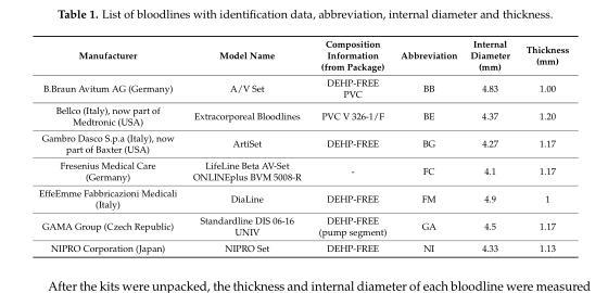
<table><thead><tr><td>Manufacturer</td><td>Model Name</td><td>Composition Information (from Package)</td><td>Abbreviation</td><td>Internal Diameter (mm)</td><td>Thickness (mm)</td></tr></thead><tbody><tr><td>B.Braun Avitum AG (Germany)</td><td>A/V Set</td><td>DEHP-FREE PVC</td><td>BB</td><td>4.83</td><td>1.00</td></tr><tr><td>Bellco (Italy), now part of Medtronic (USA)</td><td>Extracorporeal Bloodlines</td><td>PVC V 326-1/F</td><td>BE</td><td>4.37</td><td>1.20</td></tr><tr><td>Gambro Dasco S.p.a (Italy), now part of Baxter (USA)</td><td>ArtiSet</td><td>DEHP-FREE</td><td>BG</td><td>4.27</td><td>1.17</td></tr><tr><td>Fresenius Medical Care (Germany)</td><td>LifeLine Beta AV-Set ONLINEplus BVM 5008-R</td><td>-</td><td>FC</td><td>4.1</td><td>1.17</td></tr><tr><td>EffeEmme Fabbricazioni Medicali (Italy)</td><td>DiaLine</td><td>DEHP-FREE</td><td>FM</td><td>4.9</td><td>1</td></tr><tr><td>GAMA Group (Czech Republic)</td><td>Standardline DIS 06-16 UNIV</td><td>DEHP-FREE (pump segment)</td><td>GA</td><td>4.5</td><td>1.17</td></tr><tr><td>NIPRO Corporation (Japan)</td><td>NIPRO Set</td><td>DEHP-FREE</td><td>NI</td><td>4.33</td><td>1.13</td></tr></tbody></table>